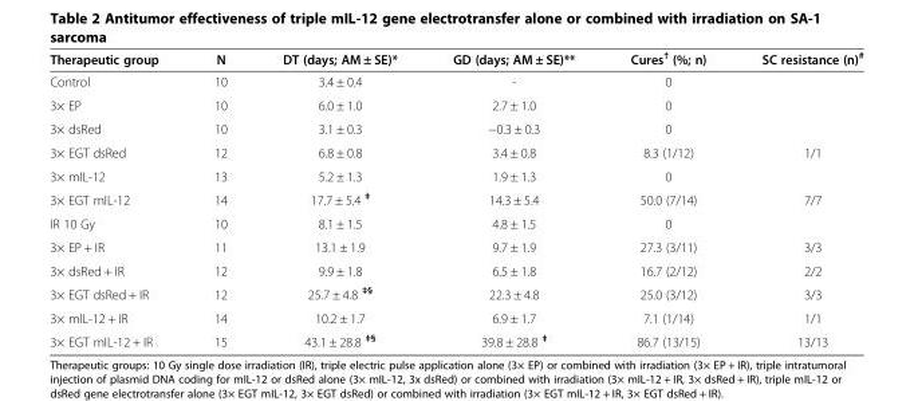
<table><thead><tr><td>Therapeutic group</td><td>N</td><td>DT (days; AM ± SE)*</td><td>GD (days; AM ± SE)**</td><td>Cures<sup>†</sup> (%; n)</td><td>SC resistance (n)<sup>#</sup></td></tr></thead><tbody><tr><td>Control</td><td>10</td><td>3.4 ± 0.4</td><td>-</td><td>0</td><td></td></tr><tr><td>3× EP</td><td>10</td><td>6.0 ± 1.0</td><td>2.7 ± 1.0</td><td>0</td><td></td></tr><tr><td>3× dsRed</td><td>10</td><td>3.1 ± 0.3</td><td>−0.3 ± 0.3</td><td>0</td><td></td></tr><tr><td>3× EGT dsRed</td><td>12</td><td>6.8 ± 0.8</td><td>3.4 ± 0.8</td><td>8.3 (1/12)</td><td>1/1</td></tr><tr><td>3× mIL-12</td><td>13</td><td>5.2 ± 1.3</td><td>1.9 ± 1.3</td><td>0</td><td></td></tr><tr><td>3× EGT mIL-12</td><td>14</td><td>17.7 ± 5.4 <sup>‡</sup></td><td>14.3 ± 5.4</td><td>50.0 (7/14)</td><td>7/7</td></tr><tr><td>IR 10 Gy</td><td>10</td><td>8.1 ± 1.5</td><td>4.8 ± 1.5</td><td>0</td><td></td></tr><tr><td>3× EP + IR</td><td>11</td><td>13.1 ± 1.9</td><td>9.7 ± 1.9</td><td>27.3 (3/11)</td><td>3/3</td></tr><tr><td>3× dsRed + IR</td><td>12</td><td>9.9 ± 1.8</td><td>6.5 ± 1.8</td><td>16.7 (2/12)</td><td>2/2</td></tr><tr><td>3× EGT dsRed + IR</td><td>12</td><td>25.7 ± 4.8 <sup>‡§</sup></td><td>22.3 ± 4.8</td><td>25.0 (3/12)</td><td>3/3</td></tr><tr><td>3× mIL-12 + IR</td><td>14</td><td>10.2 ± 1.7</td><td>6.9 ± 1.7</td><td>7.1 (1/14)</td><td>1/1</td></tr><tr><td>3× EGT mIL-12 + IR</td><td>15</td><td>43.1 ± 28.8 <sup>‡§</sup></td><td>39.8 ± 28.8 <sup>‡</sup></td><td>86.7 (13/15)</td><td>13/13</td></tr></tbody></table>